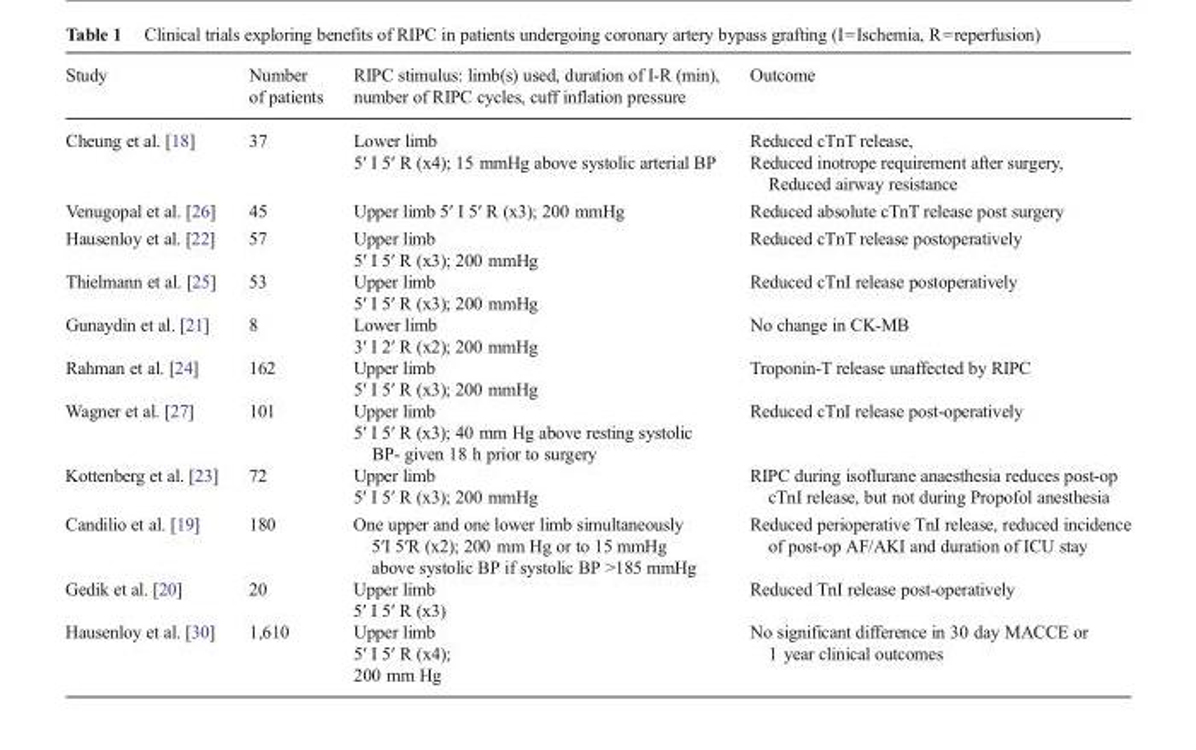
<table><thead><tr><td>Study</td><td>Number of patients</td><td>RIPC stimulus: limb(s) used, duration of I-R (min), number of RIPC cycles, cuff inflation pressure</td><td>Outcome</td></tr></thead><tbody><tr><td>Cheung et al. [18]</td><td>37</td><td>Lower limb 5′ I 5′ R (x4); 15 mmHg above systolic arterial BP</td><td>Reduced cTnT release, Reduced inotrope requirement after surgery, Reduced airway resistance</td></tr><tr><td>Venugopal et al. [26]</td><td>45</td><td>Upper limb 5′ I 5′ R (x3); 200 mmHg</td><td>Reduced absolute cTnT release post surgery</td></tr><tr><td>Hausenloy et al. [22]</td><td>57</td><td>Upper limb 5′ I 5′ R (x3); 200 mmHg</td><td>Reduced cTnT release postoperatively</td></tr><tr><td>Thielmann et al. [25]</td><td>53</td><td>Upper limb 5′ I 5′ R (x3); 200 mmHg</td><td>Reduced cTnI release postoperatively</td></tr><tr><td>Gunaydin et al. [21]</td><td>8</td><td>Lower limb 3′ I 2′ R (x2); 200 mmHg</td><td>No change in CK-MB</td></tr><tr><td>Rahman et al. [24]</td><td>162</td><td>Upper limb 5′ I 5′ R (x3); 200 mmHg</td><td>Troponin-T release unaffected by RIPC</td></tr><tr><td>Wagner et al. [27]</td><td>101</td><td>Upper limb 5′ I 5′ R (x3); 40 mm Hg above resting systolic BP- given 18 h prior to surgery</td><td>Reduced cTnI release post-operatively</td></tr><tr><td>Kottenberg et al. [23]</td><td>72</td><td>Upper limb 5′ I 5′ R (x3); 200 mmHg</td><td>RIPC during isoflurane anaesthesia reduces post-op cTnI release, but not during Propofol anesthesia</td></tr><tr><td>Candilio et al. [19]</td><td>180</td><td>One upper and one lower limb simultaneously 5′I 5′R (x2); 200 mm Hg or to 15 mmHg above systolic BP if systolic BP &gt;185 mmHg</td><td>Reduced perioperative TnI release, reduced incidence of post-op AF/AKI and duration of ICU stay</td></tr><tr><td>Gedik et al. [20]</td><td>20</td><td>Upper limb 5′ I 5′ R (x3)</td><td>Reduced TnI release post-operatively</td></tr><tr><td>Hausenloy et al. [30]</td><td>1,610</td><td>Upper limb 5′ I 5′ R (x4); 200 mm Hg</td><td>No significant difference in 30 day MACCE or 1 year clinical outcomes</td></tr></tbody></table>